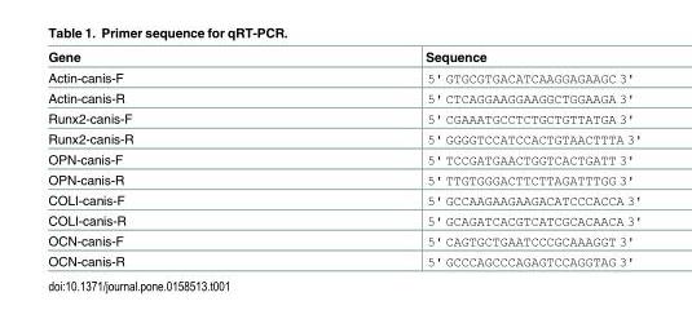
<table><thead><tr><td>Gene</td><td>Sequence</td></tr></thead><tbody><tr><td>Actin-canis-F</td><td>5&#x27; GTGCGTGACATCAAGGAGAAGC 3&#x27;</td></tr><tr><td>Actin-canis-R</td><td>5&#x27; CTCAGGAAGGAAGGCTGGAAGA 3&#x27;</td></tr><tr><td>Runx2-canis-F</td><td>5&#x27; CGAAATGCCTCTGCTGTTATGA 3&#x27;</td></tr><tr><td>Runx2-canis-R</td><td>5&#x27; GGGGTCCATCCACTGTAACTTTA 3&#x27;</td></tr><tr><td>OPN-canis-F</td><td>5&#x27; TCCGATGAACTGGTCACTGATT 3&#x27;</td></tr><tr><td>OPN-canis-R</td><td>5&#x27; TTGTGGGACTTCTTAGATTTGG 3&#x27;</td></tr><tr><td>COLI-canis-F</td><td>5&#x27; GCCAAGAAGAAGACATCCCACCA 3&#x27;</td></tr><tr><td>COLI-canis-R</td><td>5&#x27; GCAGATCACGTCATCGCACAACA 3&#x27;</td></tr><tr><td>OCN-canis-F</td><td>5&#x27; CAGTGCTGAATCCCGCAAAGGT 3&#x27;</td></tr><tr><td>OCN-canis-R</td><td>5&#x27; GCCCAGCCCAGAGTCCAGGTAG 3&#x27;</td></tr></tbody></table>